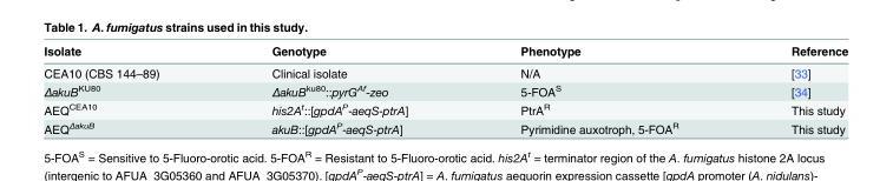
<table><thead><tr><td>Isolate</td><td>Genotype</td><td>Phenotype</td><td>Reference</td></tr></thead><tbody><tr><td>CEA10 (CBS 144–89)</td><td>Clinical isolate</td><td>N/A</td><td>[33]</td></tr><tr><td>ΔakuB<sup>KU80</sup></td><td>ΔakuB<sup>ku80</sup>::pyrG<sup>Af</sup>-zeo</td><td>5-FOA<sup>S</sup></td><td>[34]</td></tr><tr><td>AEQ<sup>CEA10</sup></td><td>his2A<sup>t</sup>::[gpdA<sup>P</sup>-aeqS-ptrA]</td><td>PtrA<sup>R</sup></td><td>This study</td></tr><tr><td>AEQ<sup>ΔakuB</sup></td><td>akuB::[gpdA<sup>P</sup>-aeqS-ptrA]</td><td>Pyrimidine auxotroph, 5-FOA<sup>R</sup></td><td>This study</td></tr></tbody></table>